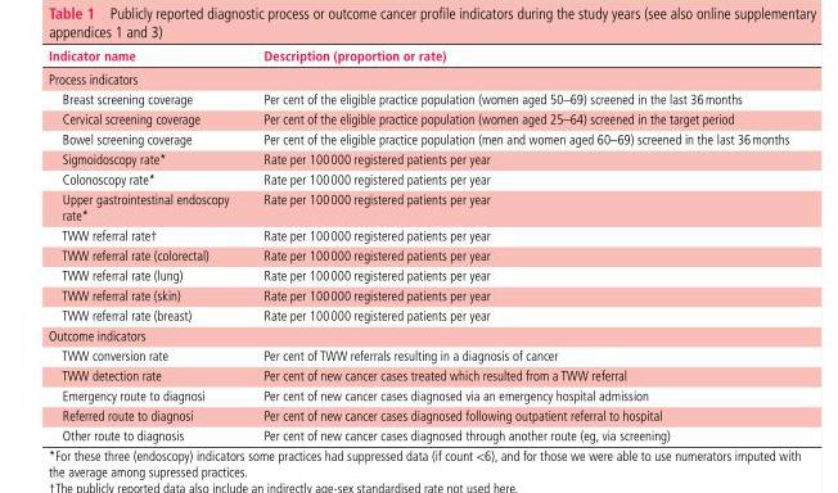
<table><thead><tr><td>Indicator name</td><td>Description (proportion or rate)</td></tr></thead><tbody><tr><td colspan="2">Process indicators</td></tr><tr><td>Breast screening coverage</td><td>Per cent of the eligible practice population (women aged 50–69) screened in the last 36 months</td></tr><tr><td>Cervical screening coverage</td><td>Per cent of the eligible practice population (women aged 25–64) screened in the target period</td></tr><tr><td>Bowel screening coverage</td><td>Per cent of the eligible practice population (men and women aged 60–69) screened in the last 36 months</td></tr><tr><td>Sigmoidoscopy rate*</td><td>Rate per 100 000 registered patients per year</td></tr><tr><td>Colonoscopy rate*</td><td>Rate per 100 000 registered patients per year</td></tr><tr><td>Upper gastrointestinal endoscopy rate*</td><td>Rate per 100 000 registered patients per year</td></tr><tr><td>TWW referral rate†</td><td>Rate per 100 000 registered patients per year</td></tr><tr><td>TWW referral rate (colorectal)</td><td>Rate per 100 000 registered patients per year</td></tr><tr><td>TWW referral rate (lung)</td><td>Rate per 100 000 registered patients per year</td></tr><tr><td>TWW referral rate (skin)</td><td>Rate per 100 000 registered patients per year</td></tr><tr><td>TWW referral rate (breast)</td><td>Rate per 100 000 registered patients per year</td></tr><tr><td colspan="2">Outcome indicators</td></tr><tr><td>TWW conversion rate</td><td>Per cent of TWW referrals resulting in a diagnosis of cancer</td></tr><tr><td>TWW detection rate</td><td>Per cent of new cancer cases treated which resulted from a TWW referral</td></tr><tr><td>Emergency route to diagnosi</td><td>Per cent of new cancer cases diagnosed via an emergency hospital admission</td></tr><tr><td>Referred route to diagnosi</td><td>Per cent of new cancer cases diagnosed following outpatient referral to hospital</td></tr><tr><td>Other route to diagnosis</td><td>Per cent of new cancer cases diagnosed through another route (eg, via screening)</td></tr></tbody></table>